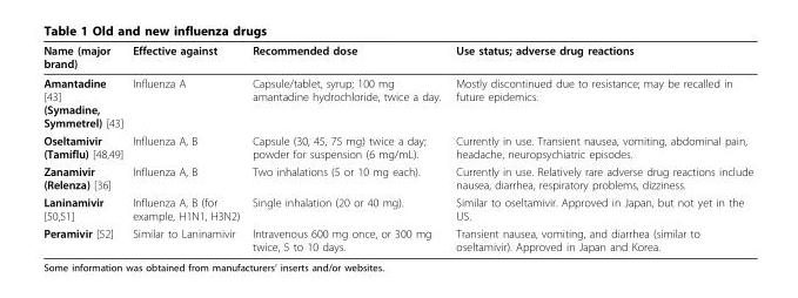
<table><thead><tr><td>Name (major brand)</td><td>Effective against</td><td>Recommended dose</td><td>Use status; adverse drug reactions</td></tr></thead><tbody><tr><td>Amantadine [43] (Symadine, Symmetrel) [43]</td><td>Influenza A</td><td>Capsule/tablet, syrup; 100 mg amantadine hydrochloride, twice a day.</td><td>Mostly discontinued due to resistance; may be recalled in future epidemics.</td></tr><tr><td>Oseltamivir (Tamiflu) [48,49]</td><td>Influenza A, B</td><td>Capsule (30, 45, 75 mg) twice a day; powder for suspension (6 mg/mL).</td><td>Currently in use. Transient nausea, vomiting, abdominal pain, headache, neuropsychiatric episodes.</td></tr><tr><td>Zanamivir (Relenza) [36]</td><td>Influenza A, B</td><td>Two inhalations (5 or 10 mg each).</td><td>Currently in use. Relatively rare adverse drug reactions include nausea, diarrhea, respiratory problems, dizziness.</td></tr><tr><td>Laninamivir [50,51]</td><td>Influenza A, B (for example, H1N1, H3N2)</td><td>Single inhalation (20 or 40 mg).</td><td>Similar to oseltamivir. Approved in Japan, but not yet in the US.</td></tr><tr><td>Peramivir [52]</td><td>Similar to Laninamivir</td><td>Intravenous 600 mg once, or 300 mg twice, 5 to 10 days.</td><td>Transient nausea, vomiting, and diarrhea (similar to oseltamivir). Approved in Japan and Korea.</td></tr></tbody></table>